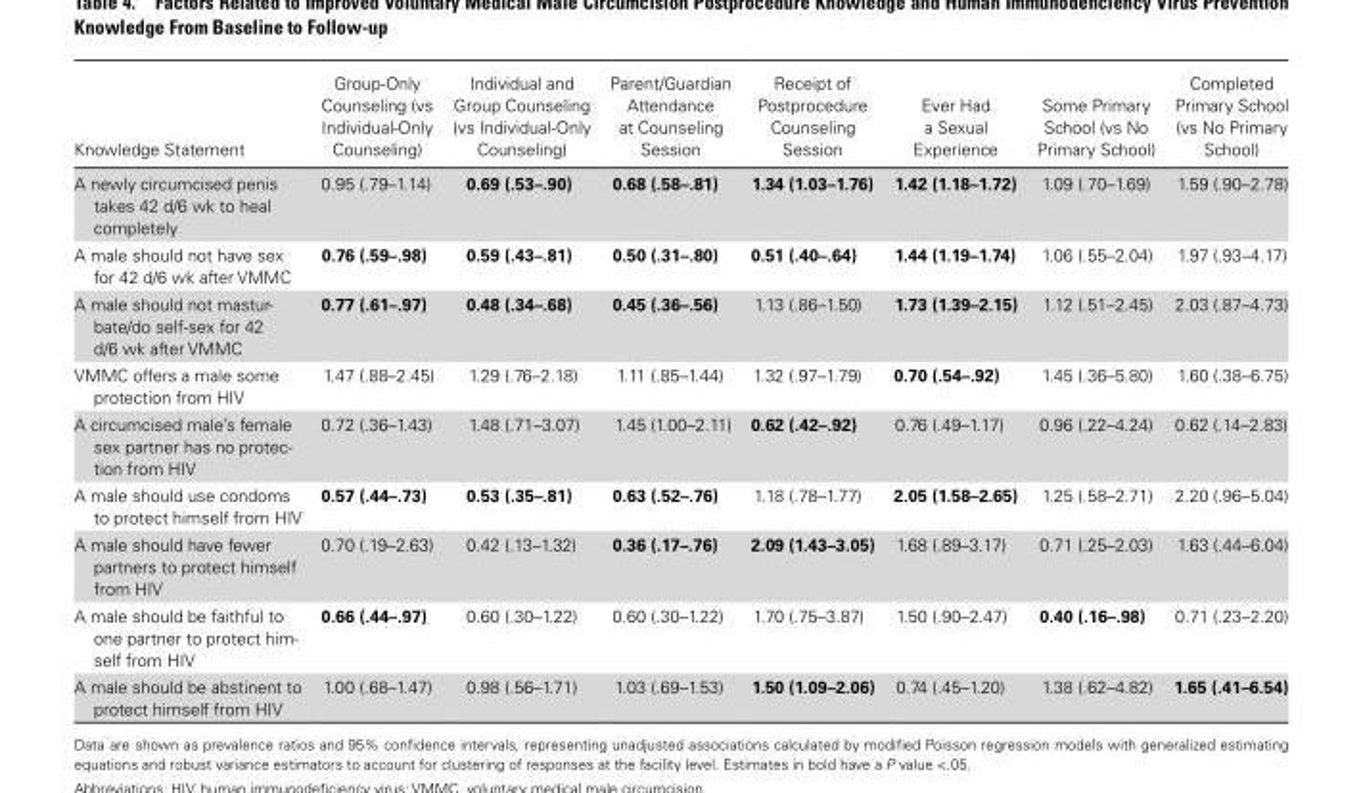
<table><thead><tr><td>Knowledge Statement</td><td>Group-Only Counseling (vs Individual-Only Counseling)</td><td>Individual and Group Counseling (vs Individual-Only Counseling)</td><td>Parent/Guardian Attendance at Counseling Session</td><td>Receipt of Postprocedure Counseling Session</td><td>Ever Had a Sexual Experience</td><td>Some Primary School (vs No Primary School)</td><td>Completed Primary School (vs No Primary School)</td></tr></thead><tbody><tr><td>A newly circumcised penis takes 42 d/6 wk to heal completely</td><td>0.95 (.79–1.14)</td><td>0.69 (.53–.90)</td><td>0.68 (.58–.81)</td><td>1.34 (1.03–1.76)</td><td>1.42 (1.18–1.72)</td><td>1.09 (.70–1.69)</td><td>1.59 (.90–2.78)</td></tr><tr><td>A male should not have sex for 42 d/6 wk after VMMC</td><td>0.76 (.59–.98)</td><td>0.59 (.43–.81)</td><td>0.50 (.31–.80)</td><td>0.51 (.40–.64)</td><td>1.44 (1.19–1.74)</td><td>1.06 (.55–2.04)</td><td>1.97 (.93–4.17)</td></tr><tr><td>A male should not mastur- bate/do self-sex for 42 d/6 wk after VMMC</td><td>0.77 (.61–.97)</td><td>0.48 (.34–.68)</td><td>0.45 (.36–.56)</td><td>1.13 (.86–1.50)</td><td>1.73 (1.39–2.15)</td><td>1.12 (.51–2.45)</td><td>2.03 (.87–4.73)</td></tr><tr><td>VMMC offers a male some protection from HIV</td><td>1.47 (.88–2.45)</td><td>1.29 (.76–2.18)</td><td>1.11 (.85–1.44)</td><td>1.32 (.97–1.79)</td><td>0.70 (.54–.92)</td><td>1.45 (.36–5.80)</td><td>1.60 (.38–6.75)</td></tr><tr><td>A circumcised male’s female sex partner has no protec- tion from HIV</td><td>0.72 (.36–1.43)</td><td>1.48 (.71–3.07)</td><td>1.45 (1.00–2.11)</td><td>0.62 (.42–.92)</td><td>0.76 (.49–1.17)</td><td>0.96 (.22–4.24)</td><td>0.62 (.14–2.83)</td></tr><tr><td>A male should use condoms to protect himself from HIV</td><td>0.57 (.44–.73)</td><td>0.53 (.35–.81)</td><td>0.63 (.52–.76)</td><td>1.18 (.78–1.77)</td><td>2.05 (1.58–2.65)</td><td>1.25 (.58–2.71)</td><td>2.20 (.96–5.04)</td></tr><tr><td>A male should have fewer partners to protect himself from HIV</td><td>0.70 (.19–2.63)</td><td>0.42 (.13–1.32)</td><td>0.36 (.17–.76)</td><td>2.09 (1.43–3.05)</td><td>1.68 (.89–3.17)</td><td>0.71 (.25–2.03)</td><td>1.63 (.44–6.04)</td></tr><tr><td>A male should be faithful to one partner to protect him- self from HIV</td><td>0.66 (.44–.97)</td><td>0.60 (.30–1.22)</td><td>0.60 (.30–1.22)</td><td>1.70 (.75–3.87)</td><td>1.50 (.90–2.47)</td><td>0.40 (.16–.98)</td><td>0.71 (.23–2.20)</td></tr><tr><td>A male should be abstinent to protect himself from HIV</td><td>1.00 (.68–1.47)</td><td>0.98 (.56–1.71)</td><td>1.03 (.69–1.53)</td><td>1.50 (1.09–2.06)</td><td>0.74 (.45–1.20)</td><td>1.38 (.62–4.82)</td><td>1.65 (.41–6.54)</td></tr></tbody></table>